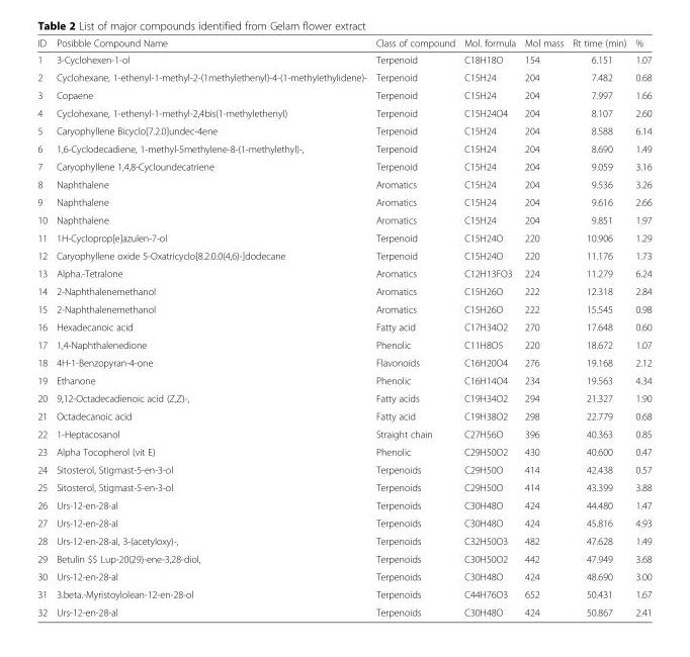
<table><thead><tr><td>ID</td><td>Posibble Compound Name</td><td>Class of compound</td><td>Mol. formula</td><td>Mol mass</td><td>Rt time (min)</td><td>%</td></tr></thead><tbody><tr><td>1</td><td>3-Cyclohexen-1-ol</td><td>Terpenoid</td><td>C18H18O</td><td>154</td><td>6.151</td><td>1.07</td></tr><tr><td>2</td><td>Cyclohexane, 1-ethenyl-1-methyl-2-(1methylethenyl)-4-(1-methylethylidene)-</td><td>Terpenoid</td><td>C15H24</td><td>204</td><td>7.482</td><td>0.68</td></tr><tr><td>3</td><td>Copaene</td><td>Terpenoid</td><td>C15H24</td><td>204</td><td>7.997</td><td>1.66</td></tr><tr><td>4</td><td>Cyclohexane, 1-ethenyl-1-methyl-2,4bis(1-methylethenyl)</td><td>Terpenoid</td><td>C15H24O4</td><td>204</td><td>8.107</td><td>2.60</td></tr><tr><td>5</td><td>Caryophyllene Bicyclo[7.2.0]undec-4ene</td><td>Terpenoid</td><td>C15H24</td><td>204</td><td>8.588</td><td>6.14</td></tr><tr><td>6</td><td>1,6-Cyclodecadiene, 1-methyl-5methylene-8-(1-methylethyl)-,</td><td>Terpenoid</td><td>C15H24</td><td>204</td><td>8.690</td><td>1.49</td></tr><tr><td>7</td><td>Caryophyllene 1,4,8-Cycloundecatriene</td><td>Terpenoid</td><td>C15H24</td><td>204</td><td>9.059</td><td>3.16</td></tr><tr><td>8</td><td>Naphthalene</td><td>Aromatics</td><td>C15H24</td><td>204</td><td>9.536</td><td>3.26</td></tr><tr><td>9</td><td>Naphthalene</td><td>Aromatics</td><td>C15H24</td><td>204</td><td>9.616</td><td>2.66</td></tr><tr><td>10</td><td>Naphthalene</td><td>Aromatics</td><td>C15H24</td><td>204</td><td>9.851</td><td>1.97</td></tr><tr><td>11</td><td>1H-Cycloprop[e]azulen-7-ol</td><td>Terpenoid</td><td>C15H24O</td><td>220</td><td>10.906</td><td>1.29</td></tr><tr><td>12</td><td>Caryophyllene oxide 5-Oxatricyclo[8.2.0.0(4,6)-]dodecane</td><td>Terpenoid</td><td>C15H24O</td><td>220</td><td>11.176</td><td>1.73</td></tr><tr><td>13</td><td>Alpha.-Tetralone</td><td>Aromatics</td><td>C12H13FO3</td><td>224</td><td>11.279</td><td>6.24</td></tr><tr><td>14</td><td>2-Naphthalenemethanol</td><td>Aromatics</td><td>C15H26O</td><td>222</td><td>12.318</td><td>2.84</td></tr><tr><td>15</td><td>2-Naphthalenemethanol</td><td>Aromatics</td><td>C15H26O</td><td>222</td><td>15.545</td><td>0.98</td></tr><tr><td>16</td><td>Hexadecanoic acid</td><td>Fatty acid</td><td>C17H34O2</td><td>270</td><td>17.648</td><td>0.60</td></tr><tr><td>17</td><td>1,4-Naphthalenedione</td><td>Phenolic</td><td>C11H8O5</td><td>220</td><td>18.672</td><td>1.07</td></tr><tr><td>18</td><td>4H-1-Benzopyran-4-one</td><td>Flavonoids</td><td>C16H20O4</td><td>276</td><td>19.168</td><td>2.12</td></tr><tr><td>19</td><td>Ethanone</td><td>Phenolic</td><td>C16H14O4</td><td>234</td><td>19.563</td><td>4.34</td></tr><tr><td>20</td><td>9,12-Octadecadienoic acid (Z,Z)-,</td><td>Fatty acids</td><td>C19H34O2</td><td>294</td><td>21.327</td><td>1.90</td></tr><tr><td>21</td><td>Octadecanoic acid</td><td>Fatty acid</td><td>C19H38O2</td><td>298</td><td>22.779</td><td>0.68</td></tr><tr><td>22</td><td>1-Heptacosanol</td><td>Straight chain</td><td>C27H56O</td><td>396</td><td>40.363</td><td>0.85</td></tr><tr><td>23</td><td>Alpha Tocopherol (vit E)</td><td>Phenolic</td><td>C29H50O2</td><td>430</td><td>40.600</td><td>0.47</td></tr><tr><td>24</td><td>Sitosterol, Stigmast-5-en-3-ol</td><td>Terpenoids</td><td>C29H50O</td><td>414</td><td>42.438</td><td>0.57</td></tr><tr><td>25</td><td>Sitosterol, Stigmast-5-en-3-ol</td><td>Terpenoids</td><td>C29H50O</td><td>414</td><td>43.399</td><td>3.88</td></tr><tr><td>26</td><td>Urs-12-en-28-al</td><td>Terpenoids</td><td>C30H48O</td><td>424</td><td>44.480</td><td>1.47</td></tr><tr><td>27</td><td>Urs-12-en-28-al</td><td>Terpenoids</td><td>C30H48O</td><td>424</td><td>45.816</td><td>4.93</td></tr><tr><td>28</td><td>Urs-12-en-28-al, 3-(acetyloxy)-,</td><td>Terpenoids</td><td>C32H50O3</td><td>482</td><td>47.628</td><td>1.49</td></tr><tr><td>29</td><td>Betulin $$ Lup-20(29)-ene-3,28-diol,</td><td>Terpenoids</td><td>C30H50O2</td><td>442</td><td>47.949</td><td>3.68</td></tr><tr><td>30</td><td>Urs-12-en-28-al</td><td>Terpenoids</td><td>C30H48O</td><td>424</td><td>48.690</td><td>3.00</td></tr><tr><td>31</td><td>3.beta.-Myristoylolean-12-en-28-ol</td><td>Terpenoids</td><td>C44H76O3</td><td>652</td><td>50.431</td><td>1.67</td></tr><tr><td>32</td><td>Urs-12-en-28-al</td><td>Terpenoids</td><td>C30H48O</td><td>424</td><td>50.867</td><td>2.41</td></tr></tbody></table>